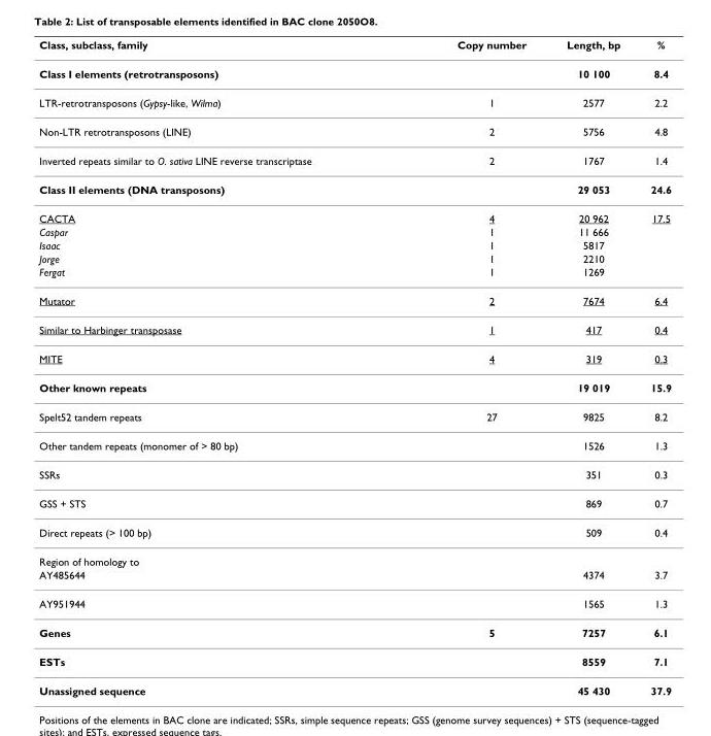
<table><thead><tr><td>Class, subclass, family</td><td>Copy number</td><td>Length, bp</td><td>%</td></tr></thead><tbody><tr><td>Class I elements (retrotransposons)</td><td></td><td>10 100</td><td>8.4</td></tr><tr><td>LTR-retrotransposons (Gypsy-like, Wilma)</td><td>1</td><td>2577</td><td>2.2</td></tr><tr><td>Non-LTR retrotransposons (LINE)</td><td>2</td><td>5756</td><td>4.8</td></tr><tr><td>Inverted repeats similar to O. sativa LINE reverse transcriptase</td><td>2</td><td>1767</td><td>1.4</td></tr><tr><td>Class II elements (DNA transposons)</td><td></td><td>29 053</td><td>24.6</td></tr><tr><td>CACTA</td><td>4</td><td>20 962</td><td>17.5</td></tr><tr><td>Caspar</td><td>1</td><td>11 666</td><td></td></tr><tr><td>Isaac</td><td>1</td><td>5817</td><td></td></tr><tr><td>Jorge</td><td>1</td><td>2210</td><td></td></tr><tr><td>Fergat</td><td>1</td><td>1269</td><td></td></tr><tr><td>Mutator</td><td>2</td><td>7674</td><td>6.4</td></tr><tr><td>Similar to Harbinger transposase</td><td>1</td><td>417</td><td>0.4</td></tr><tr><td>MITE</td><td>4</td><td>319</td><td>0.3</td></tr><tr><td>Other known repeats</td><td></td><td>19 019</td><td>15.9</td></tr><tr><td>Spelt52 tandem repeats</td><td>27</td><td>9825</td><td>8.2</td></tr><tr><td>Other tandem repeats (monomer of &gt; 80 bp)</td><td></td><td>1526</td><td>1.3</td></tr><tr><td>SSRs</td><td></td><td>351</td><td>0.3</td></tr><tr><td>GSS + STS</td><td></td><td>869</td><td>0.7</td></tr><tr><td>Direct repeats (&gt; 100 bp)</td><td></td><td>509</td><td>0.4</td></tr><tr><td colspan="4">Region of homology to</td></tr><tr><td>AY485644</td><td></td><td>4374</td><td>3.7</td></tr><tr><td>AY951944</td><td></td><td>1565</td><td>1.3</td></tr><tr><td>Genes</td><td>5</td><td>7257</td><td>6.1</td></tr><tr><td>ESTs</td><td></td><td>8559</td><td>7.1</td></tr><tr><td>Unassigned sequence</td><td></td><td>45 430</td><td>37.9</td></tr></tbody></table>